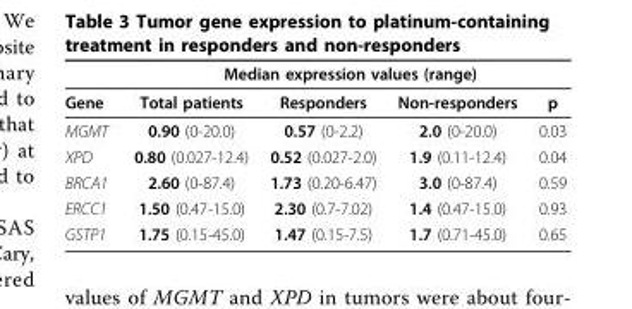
<table><thead><tr><td rowspan="2">Gene</td><td colspan="4">Median expression values (range)</td></tr><tr><td>Total patients</td><td>Responders</td><td>Non-responders</td><td>p</td></tr></thead><tbody><tr><td>MGMT</td><td>0.90 (0-20.0)</td><td>0.57 (0-2.2)</td><td>2.0 (0-20.0)</td><td>0.03</td></tr><tr><td>XPD</td><td>0.80 (0.027-12.4)</td><td>0.52 (0.027-2.0)</td><td>1.9 (0.11-12.4)</td><td>0.04</td></tr><tr><td>BRCA1</td><td>2.60 (0-87.4)</td><td>1.73 (0.20-6.47)</td><td>3.0 (0-87.4)</td><td>0.59</td></tr><tr><td>ERCC1</td><td>1.50 (0.47-15.0)</td><td>2.30 (0.7-7.02)</td><td>1.4 (0.47-15.0)</td><td>0.93</td></tr><tr><td>GSTP1</td><td>1.75 (0.15-45.0)</td><td>1.47 (0.15-7.5)</td><td>1.7 (0.71-45.0)</td><td>0.65</td></tr></tbody></table>